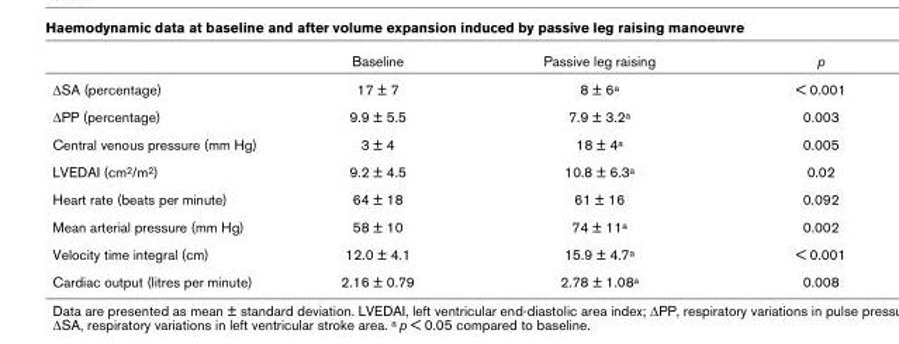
<table><thead><tr><td></td><td>Baseline</td><td>Passive leg raising</td><td>p</td></tr></thead><tbody><tr><td>ΔSA (percentage)</td><td>17 ± 7</td><td>8 ± 6a</td><td>&lt; 0.001</td></tr><tr><td>ΔPP (percentage)</td><td>9.9 ± 5.5</td><td>7.9 ± 3.2a</td><td>0.003</td></tr><tr><td>Central venous pressure (mm Hg)</td><td>3 ± 4</td><td>18 ± 4a</td><td>0.005</td></tr><tr><td>LVEDAI (cm2/m2)</td><td>9.2 ± 4.5</td><td>10.8 ± 6.3a</td><td>0.02</td></tr><tr><td>Heart rate (beats per minute)</td><td>64 ± 18</td><td>61 ± 16</td><td>0.092</td></tr><tr><td>Mean arterial pressure (mm Hg)</td><td>58 ± 10</td><td>74 ± 11a</td><td>0.002</td></tr><tr><td>Velocity time integral (cm)</td><td>12.0 ± 4.1</td><td>15.9 ± 4.7a</td><td>&lt; 0.001</td></tr><tr><td>Cardiac output (litres per minute)</td><td>2.16 ± 0.79</td><td>2.78 ± 1.08a</td><td>0.008</td></tr></tbody></table>